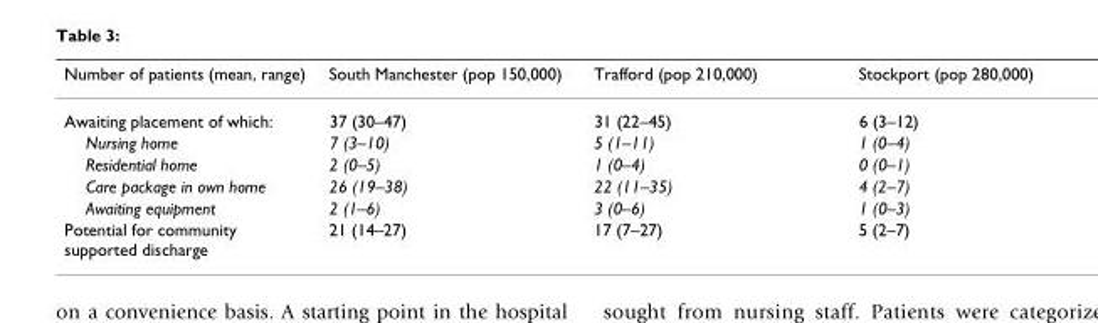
<table><thead><tr><td>Number of patients (mean, range)</td><td>South Manchester (pop 150,000)</td><td>Trafford (pop 210,000)</td><td>Stockport (pop 280,000)</td></tr></thead><tbody><tr><td>Awaiting placement of which:</td><td>37 (30–47)</td><td>31 (22–45)</td><td>6 (3–12)</td></tr><tr><td>Nursing home</td><td>7 (3–10)</td><td>5 (1–11)</td><td>1 (0–4)</td></tr><tr><td>Residential home</td><td>2 (0–5)</td><td>1 (0–4)</td><td>0 (0–1)</td></tr><tr><td>Care package in own home</td><td>26 (19–38)</td><td>22 (11–35)</td><td>4 (2–7)</td></tr><tr><td>Awaiting equipment</td><td>2 (1–6)</td><td>3 (0–6)</td><td>1 (0–3)</td></tr><tr><td>Potential for community supported discharge</td><td>21 (14–27)</td><td>17 (7–27)</td><td>5 (2–7)</td></tr></tbody></table>